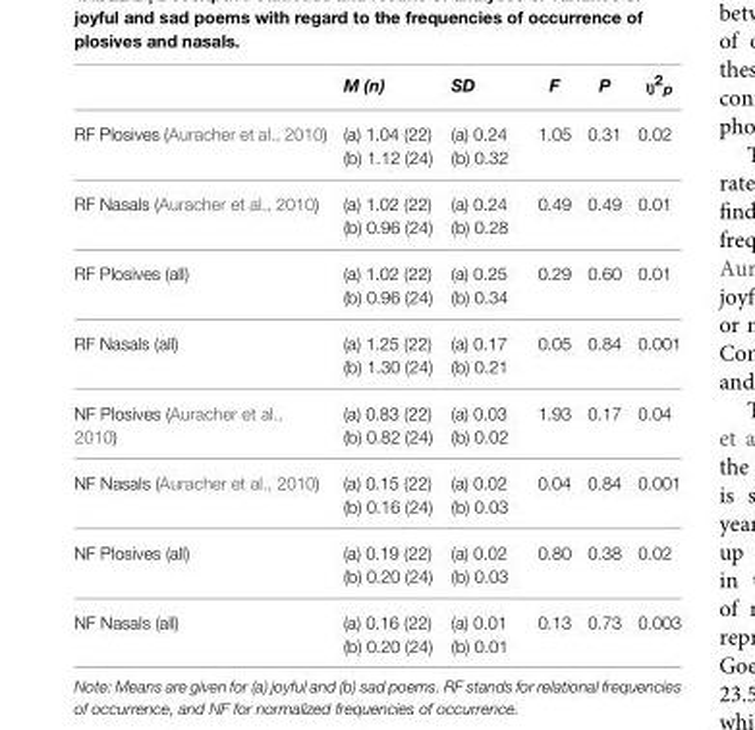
<table><thead><tr><td></td><td>M (n)</td><td>SD</td><td>F</td><td>P</td><td>N2p</td></tr></thead><tbody><tr><td>RF Plosives (Auracher et al., 2010)</td><td>(a) 1.04 (22) (b) 1.12 (24)</td><td>(a) 0.24 (b) 0.32</td><td>1.05</td><td>0.31</td><td>0.02</td></tr><tr><td>RF Nasals (Auracher et al., 2010)</td><td>(a) 1.02 (22) (b) 0.96 (24)</td><td>(a) 0.24 (b) 0.28</td><td>0.49</td><td>0.49</td><td>0.01</td></tr><tr><td>RF Plosives (all)</td><td>(a) 1.02 (22) (b) 0.96 (24)</td><td>(a) 0.25 (b) 0.34</td><td>0.29</td><td>0.60</td><td>0.01</td></tr><tr><td>RF Nasals (all)</td><td>(a) 1.25 (22) (b) 1.30 (24)</td><td>(a) 0.17 (b) 0.21</td><td>0.05</td><td>0.84</td><td>0.001</td></tr><tr><td>NF Plosives (Auracher et al., 2010)</td><td>(a) 0.83 (22) (b) 0.82 (24)</td><td>(a) 0.03 (b) 0.02</td><td>1.93</td><td>0.17</td><td>0.04</td></tr><tr><td>NF Nasals (Auracher et al., 2010)</td><td>(a) 0.15 (22) (b) 0.16 (24)</td><td>(a) 0.02 (b) 0.03</td><td>0.04</td><td>0.84</td><td>0.001</td></tr><tr><td>NF Plosives (all)</td><td>(a) 0.19 (22) (b) 0.20 (24)</td><td>(a) 0.02 (b) 0.03</td><td>0.80</td><td>0.38</td><td>0.02</td></tr><tr><td>NF Nasals (all)</td><td>(a) 0.16 (22) (b) 0.20 (24)</td><td>(a) 0.01 (b) 0.01</td><td>0.13</td><td>0.73</td><td>0.003</td></tr></tbody></table>